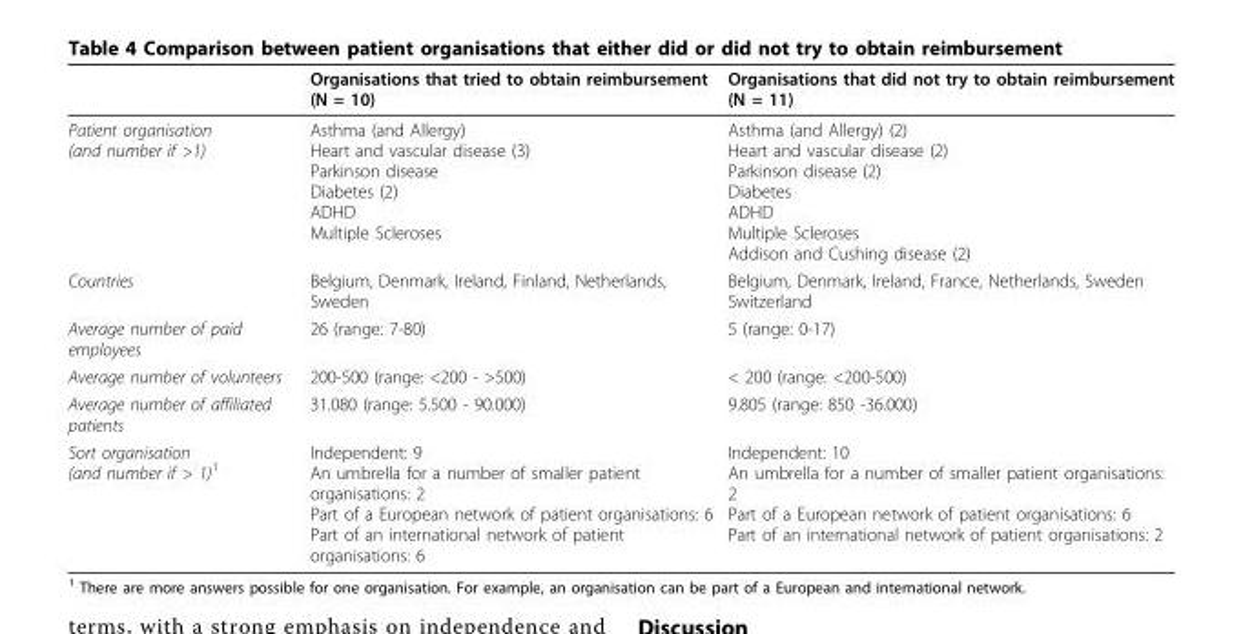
<table><thead><tr><td></td><td>Organisations that tried to obtain reimbursement (N = 10)</td><td>Organisations that did not try to obtain reimbursement (N = 11)</td></tr></thead><tbody><tr><td>Patient organisation (and number if &gt;1)</td><td>Asthma (and Allergy) Heart and vascular disease (3) Parkinson disease Diabetes (2) ADHD Multiple Scleroses</td><td>Asthma (and Allergy) (2) Heart and vascular disease (2) Parkinson disease (2) Diabetes ADHD Multiple Scleroses Addison and Cushing disease (2)</td></tr><tr><td>Countries</td><td>Belgium, Denmark, Ireland, Finland, Netherlands, Sweden</td><td>Belgium, Denmark, Ireland, France, Netherlands, Sweden Switzerland</td></tr><tr><td>Average number of paid employees</td><td>26 (range: 7-80)</td><td>5 (range: 0-17)</td></tr><tr><td>Average number of volunteers</td><td>200-500 (range: &lt;200 - &gt;500)</td><td>&lt; 200 (range: &lt;200-500)</td></tr><tr><td>Average number of affiliated patients</td><td>31.080 (range: 5.500 - 90.000)</td><td>9.805 (range: 850 -36.000)</td></tr><tr><td>Sort organisation (and number if &gt; 1)<sup>1</sup></td><td>Independent: 9 An umbrella for a number of smaller patient organisations: 2 Part of a European network of patient organisations: 6 Part of an international network of patient organisations: 6</td><td>Independent: 10 An umbrella for a number of smaller patient organisations: 2 Part of a European network of patient organisations: 6 Part of an international network of patient organisations: 2</td></tr></tbody></table>